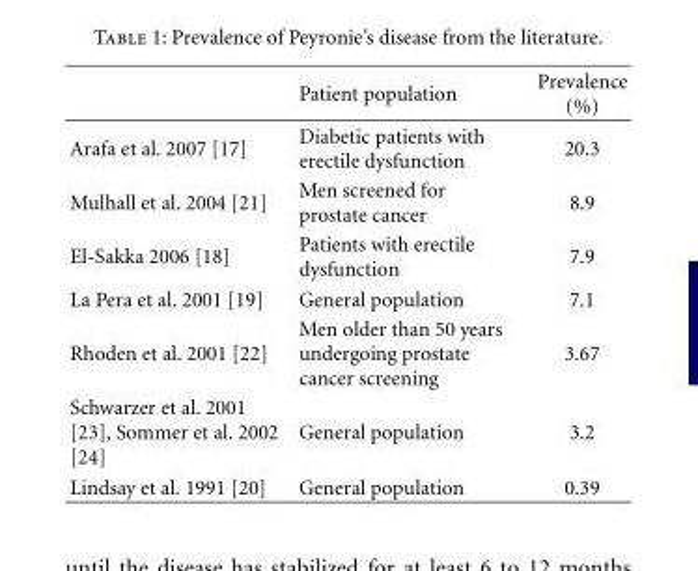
<table><thead><tr><td></td><td>Patient population</td><td>Prevalence (%)</td></tr></thead><tbody><tr><td>Arafa et al. 2007 [17]</td><td>Diabetic patients with erectile dysfunction</td><td>20.3</td></tr><tr><td>Mulhall et al. 2004 [21]</td><td>Men screened for prostate cancer</td><td>8.9</td></tr><tr><td>El-Sakka 2006 [18]</td><td>Patients with erectile dysfunction</td><td>7.9</td></tr><tr><td>La Pera et al. 2001 [19]</td><td>General population</td><td>7.1</td></tr><tr><td>Rhoden et al. 2001 [22]</td><td>Men older than 50 years undergoing prostate cancer screening</td><td>3.67</td></tr><tr><td>Schwarzer et al. 2001 [23], Sommer et al. 2002 [24]</td><td>General population</td><td>3.2</td></tr><tr><td>Lindsay et al. 1991 [20]</td><td>General population</td><td>0.39</td></tr></tbody></table>